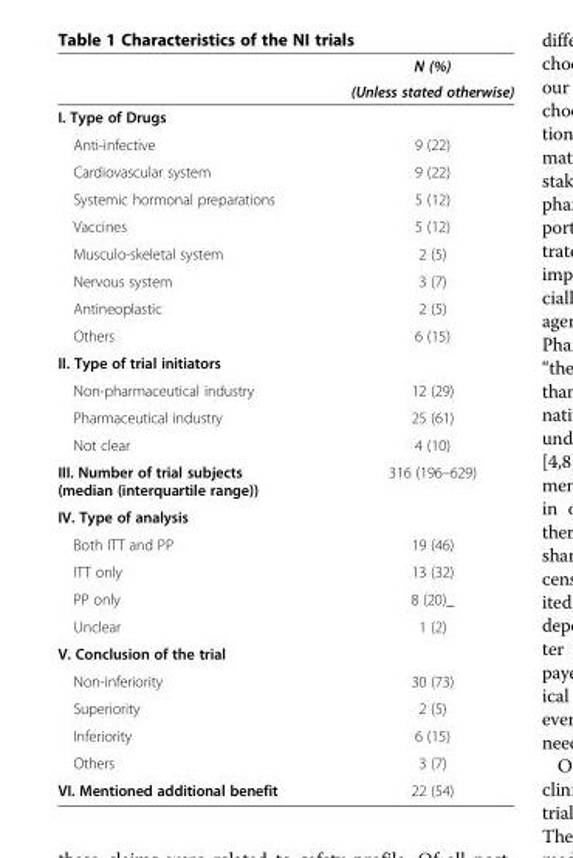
<table><thead><tr><td rowspan="2"></td><td rowspan="2">N (%) (Unless stated otherwise)</td></tr><tr></tr></thead><tbody><tr><td colspan="2">I. Type of Drugs</td></tr><tr><td>Anti-infective</td><td>9 (22)</td></tr><tr><td>Cardiovascular system</td><td>9 (22)</td></tr><tr><td>Systemic hormonal preparations</td><td>5 (12)</td></tr><tr><td>Vaccines</td><td>5 (12)</td></tr><tr><td>Musculo-skeletal system</td><td>2 (5)</td></tr><tr><td>Nervous system</td><td>3 (7)</td></tr><tr><td>Antineoplastic</td><td>2 (5)</td></tr><tr><td>Others</td><td>6 (15)</td></tr><tr><td colspan="2">II. Type of trial initiators</td></tr><tr><td>Non-pharmaceutical industry</td><td>12 (29)</td></tr><tr><td>Pharmaceutical industry</td><td>25 (61)</td></tr><tr><td>Not clear</td><td>4 (10)</td></tr><tr><td>III. Number of trial subjects (median (interquartile range))</td><td>316 (196–629)</td></tr><tr><td colspan="2">IV. Type of analysis</td></tr><tr><td>Both ITT and PP</td><td>19 (46)</td></tr><tr><td>ITT only</td><td>13 (32)</td></tr><tr><td>PP only</td><td>8 (20)_</td></tr><tr><td>Unclear</td><td>1 (2)</td></tr><tr><td colspan="2">V. Conclusion of the trial</td></tr><tr><td>Non-inferiority</td><td>30 (73)</td></tr><tr><td>Superiority</td><td>2 (5)</td></tr><tr><td>Inferiority</td><td>6 (15)</td></tr><tr><td>Others</td><td>3 (7)</td></tr><tr><td>VI. Mentioned additional benefit</td><td>22 (54)</td></tr></tbody></table>